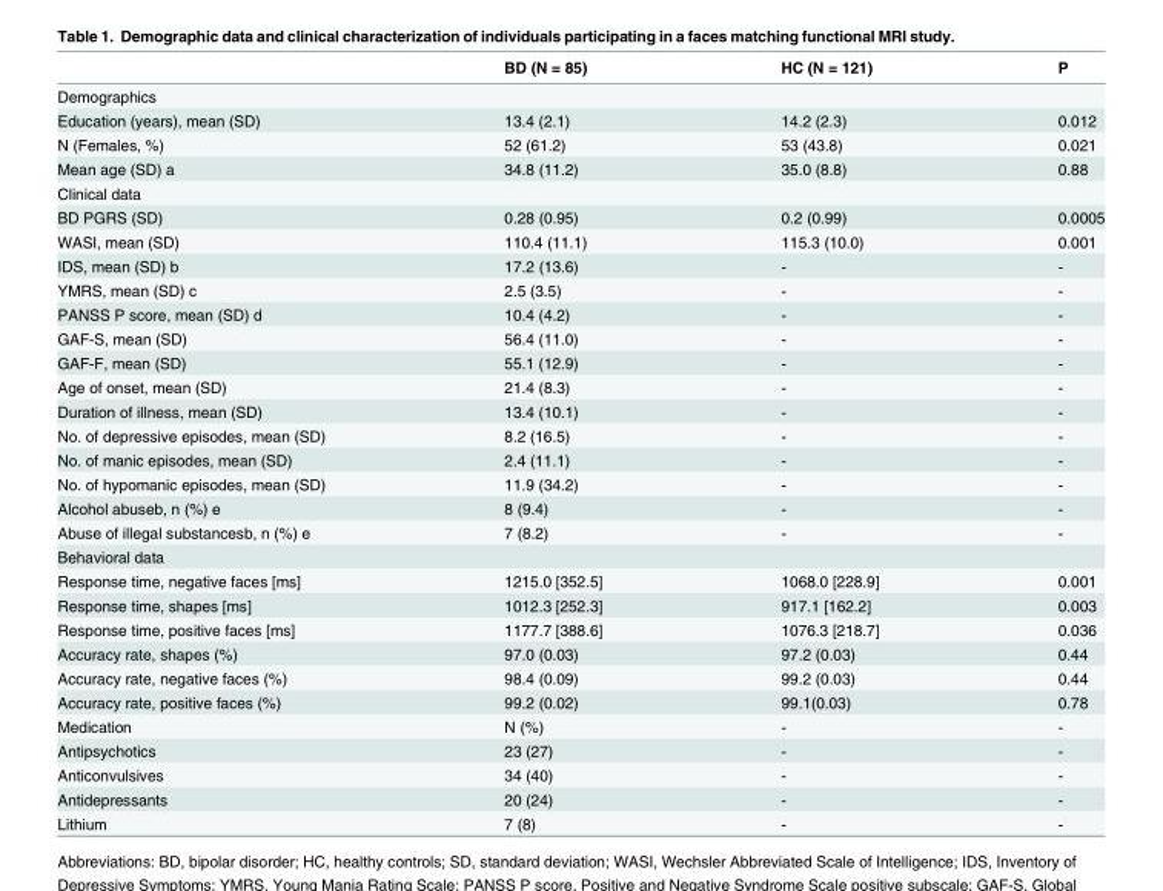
<table><thead><tr><td></td><td>BD (N = 85)</td><td>HC (N = 121)</td><td>P</td></tr></thead><tbody><tr><td colspan="4">Demographics</td></tr><tr><td>Education (years), mean (SD)</td><td>13.4 (2.1)</td><td>14.2 (2.3)</td><td>0.012</td></tr><tr><td>N (Females, %)</td><td>52 (61.2)</td><td>53 (43.8)</td><td>0.021</td></tr><tr><td>Mean age (SD) a</td><td>34.8 (11.2)</td><td>35.0 (8.8)</td><td>0.88</td></tr><tr><td colspan="4">Clinical data</td></tr><tr><td>BD PGRS (SD)</td><td>0.28 (0.95)</td><td>0.2 (0.99)</td><td>0.0005</td></tr><tr><td>WASI, mean (SD)</td><td>110.4 (11.1)</td><td>115.3 (10.0)</td><td>0.001</td></tr><tr><td>IDS, mean (SD) b</td><td>17.2 (13.6)</td><td>-</td><td>-</td></tr><tr><td>YMRS, mean (SD) c</td><td>2.5 (3.5)</td><td>-</td><td>-</td></tr><tr><td>PANSS P score, mean (SD) d</td><td>10.4 (4.2)</td><td>-</td><td>-</td></tr><tr><td>GAF-S, mean (SD)</td><td>56.4 (11.0)</td><td>-</td><td>-</td></tr><tr><td>GAF-F, mean (SD)</td><td>55.1 (12.9)</td><td>-</td><td>-</td></tr><tr><td>Age of onset, mean (SD)</td><td>21.4 (8.3)</td><td>-</td><td>-</td></tr><tr><td>Duration of illness, mean (SD)</td><td>13.4 (10.1)</td><td>-</td><td>-</td></tr><tr><td>No. of depressive episodes, mean (SD)</td><td>8.2 (16.5)</td><td>-</td><td>-</td></tr><tr><td>No. of manic episodes, mean (SD)</td><td>2.4 (11.1)</td><td>-</td><td>-</td></tr><tr><td>No. of hypomanic episodes, mean (SD)</td><td>11.9 (34.2)</td><td>-</td><td>-</td></tr><tr><td>Alcohol abuseb, n (%) e</td><td>8 (9.4)</td><td>-</td><td>-</td></tr><tr><td>Abuse of illegal substancesb, n (%) e</td><td>7 (8.2)</td><td>-</td><td>-</td></tr><tr><td colspan="4">Behavioral data</td></tr><tr><td>Response time, negative faces [ms]</td><td>1215.0 [352.5]</td><td>1068.0 [228.9]</td><td>0.001</td></tr><tr><td>Response time, shapes [ms]</td><td>1012.3 [252.3]</td><td>917.1 [162.2]</td><td>0.003</td></tr><tr><td>Response time, positive faces [ms]</td><td>1177.7 [388.6]</td><td>1076.3 [218.7]</td><td>0.036</td></tr><tr><td>Accuracy rate, shapes (%)</td><td>97.0 (0.03)</td><td>97.2 (0.03)</td><td>0.44</td></tr><tr><td>Accuracy rate, negative faces (%)</td><td>98.4 (0.09)</td><td>99.2 (0.03)</td><td>0.44</td></tr><tr><td>Accuracy rate, positive faces (%)</td><td>99.2 (0.02)</td><td>99.1(0.03)</td><td>0.78</td></tr><tr><td>Medication</td><td>N (%)</td><td>-</td><td>-</td></tr><tr><td>Antipsychotics</td><td>23 (27)</td><td>-</td><td>-</td></tr><tr><td>Anticonvulsives</td><td>34 (40)</td><td>-</td><td>-</td></tr><tr><td>Antidepressants</td><td>20 (24)</td><td>-</td><td>-</td></tr><tr><td>Lithium</td><td>7 (8)</td><td>-</td><td>-</td></tr></tbody></table>